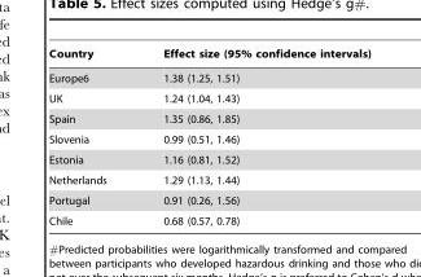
<table><thead><tr><td>Country</td><td>Effect size (95% confidence intervals)</td></tr></thead><tbody><tr><td>Europe6</td><td>1.38 (1.25, 1.51)</td></tr><tr><td>UK</td><td>1.24 (1.04, 1.43)</td></tr><tr><td>Spain</td><td>1.35 (0.86, 1.85)</td></tr><tr><td>Slovenia</td><td>0.99 (0.51, 1.46)</td></tr><tr><td>Estonia</td><td>1.16 (0.81, 1.52)</td></tr><tr><td>Netherlands</td><td>1.29 (1.13, 1.44)</td></tr><tr><td>Portugal</td><td>0.91 (0.26, 1.56)</td></tr><tr><td>Chile</td><td>0.68 (0.57, 0.78)</td></tr></tbody></table>